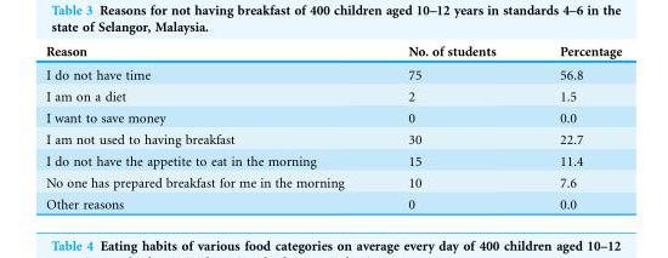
<table><thead><tr><td>Reason</td><td>No. of students</td><td>Percentage</td></tr></thead><tbody><tr><td>I do not have time</td><td>75</td><td>56.8</td></tr><tr><td>I am on a diet</td><td>2</td><td>1.5</td></tr><tr><td>I want to save money</td><td>0</td><td>0.0</td></tr><tr><td>I am not used to having breakfast</td><td>30</td><td>22.7</td></tr><tr><td>I do not have the appetite to eat in the morning</td><td>15</td><td>11.4</td></tr><tr><td>No one has prepared breakfast for me in the morning</td><td>10</td><td>7.6</td></tr><tr><td>Other reasons</td><td>0</td><td>0.0</td></tr></tbody></table>